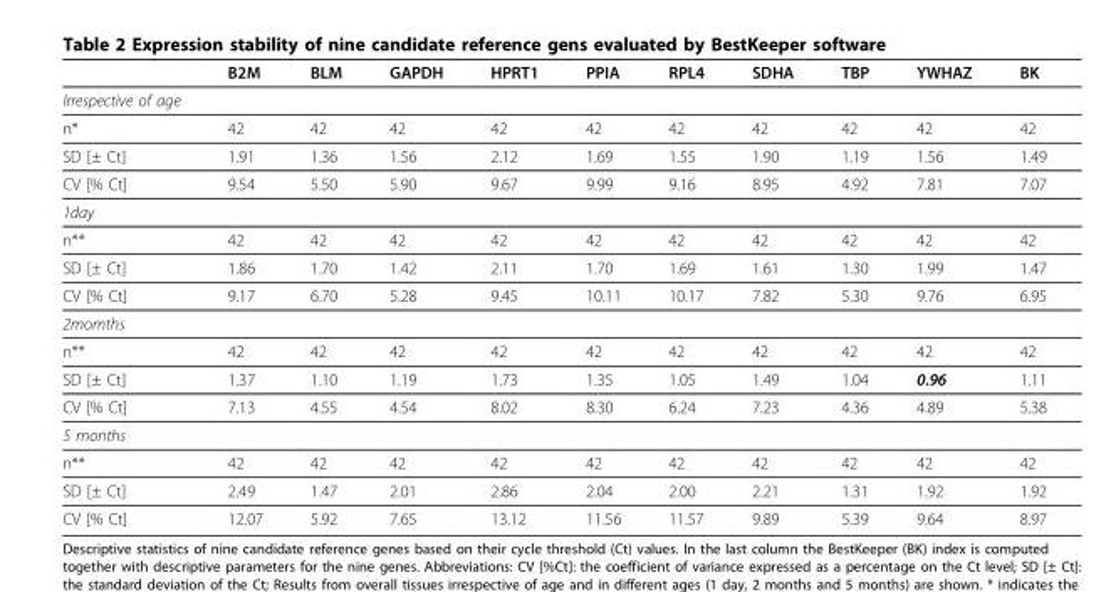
<table><thead><tr><td></td><td>B2M</td><td>BLM</td><td>GAPDH</td><td>HPRT1</td><td>PPIA</td><td>RPL4</td><td>SDHA</td><td>TBP</td><td>YWHAZ</td><td>BK</td></tr></thead><tbody><tr><td colspan="11">Irrespective of age</td></tr><tr><td>n*</td><td>42</td><td>42</td><td>42</td><td>42</td><td>42</td><td>42</td><td>42</td><td>42</td><td>42</td><td>42</td></tr><tr><td>SD [± Ct]</td><td>1.91</td><td>1.36</td><td>1.56</td><td>2.12</td><td>1.69</td><td>1.55</td><td>1.90</td><td>1.19</td><td>1.56</td><td>1.49</td></tr><tr><td>CV [% Ct]</td><td>9.54</td><td>5.50</td><td>5.90</td><td>9.67</td><td>9.99</td><td>9.16</td><td>8.95</td><td>4.92</td><td>7.81</td><td>7.07</td></tr><tr><td colspan="11">1day</td></tr><tr><td>n**</td><td>42</td><td>42</td><td>42</td><td>42</td><td>42</td><td>42</td><td>42</td><td>42</td><td>42</td><td>42</td></tr><tr><td>SD [± Ct]</td><td>1.86</td><td>1.70</td><td>1.42</td><td>2.11</td><td>1.70</td><td>1.69</td><td>1.61</td><td>1.30</td><td>1.99</td><td>1.47</td></tr><tr><td>CV [% Ct]</td><td>9.17</td><td>6.70</td><td>5.28</td><td>9.45</td><td>10.11</td><td>10.17</td><td>7.82</td><td>5.30</td><td>9.76</td><td>6.95</td></tr><tr><td colspan="11">2momths</td></tr><tr><td>n**</td><td>42</td><td>42</td><td>42</td><td>42</td><td>42</td><td>42</td><td>42</td><td>42</td><td>42</td><td>42</td></tr><tr><td>SD [± Ct]</td><td>1.37</td><td>1.10</td><td>1.19</td><td>1.73</td><td>1.35</td><td>1.05</td><td>1.49</td><td>1.04</td><td>0.96</td><td>1.11</td></tr><tr><td>CV [% Ct]</td><td>7.13</td><td>4.55</td><td>4.54</td><td>8.02</td><td>8.30</td><td>6.24</td><td>7.23</td><td>4.36</td><td>4.89</td><td>5.38</td></tr><tr><td colspan="11">5 months</td></tr><tr><td>n**</td><td>42</td><td>42</td><td>42</td><td>42</td><td>42</td><td>42</td><td>42</td><td>42</td><td>42</td><td>42</td></tr><tr><td>SD [± Ct]</td><td>2.49</td><td>1.47</td><td>2.01</td><td>2.86</td><td>2.04</td><td>2.00</td><td>2.21</td><td>1.31</td><td>1.92</td><td>1.92</td></tr><tr><td>CV [% Ct]</td><td>12.07</td><td>5.92</td><td>7.65</td><td>13.12</td><td>11.56</td><td>11.57</td><td>9.89</td><td>5.39</td><td>9.64</td><td>8.97</td></tr></tbody></table>